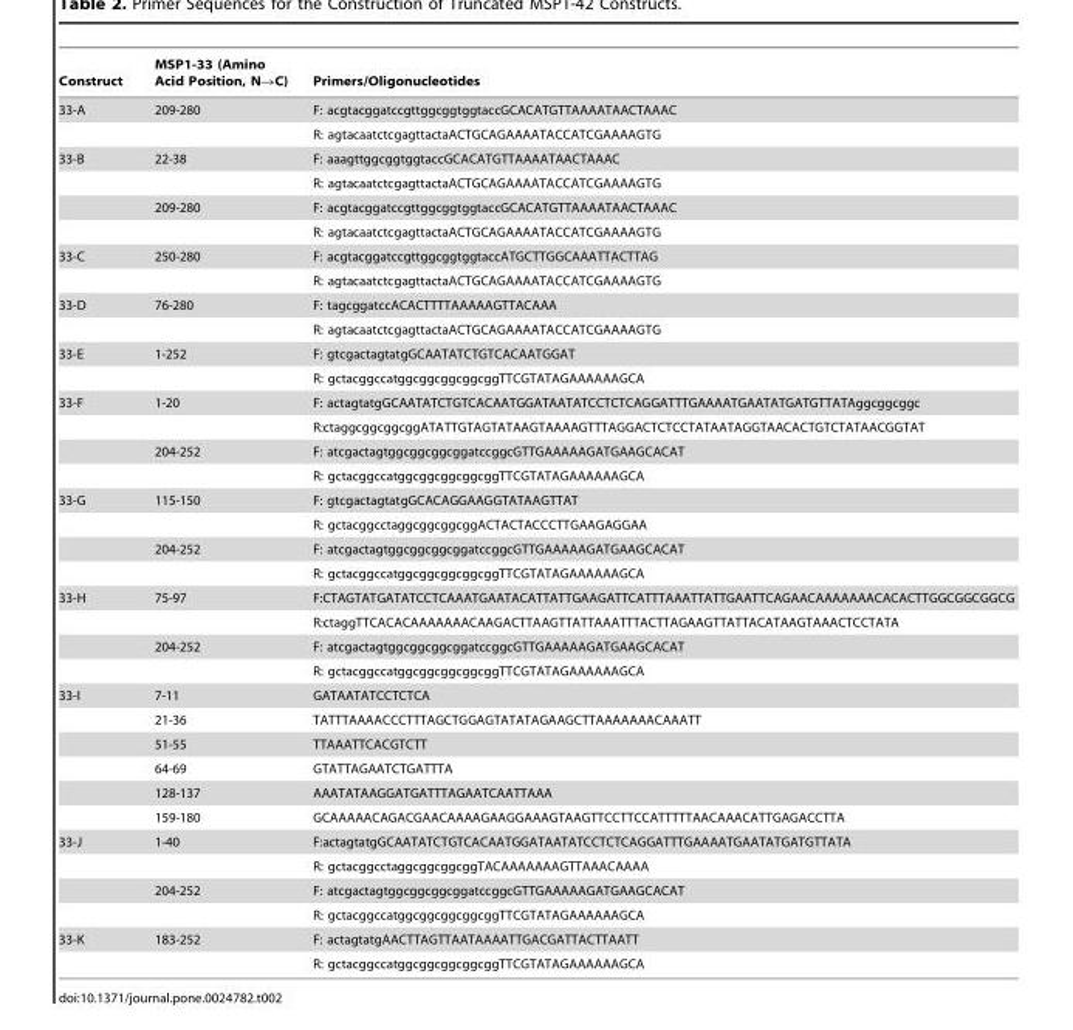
<table><thead><tr><td>Construct</td><td>MSP1-33 (Amino Acid Position, N→C)</td><td>Primers/Oligonucleotides</td></tr></thead><tbody><tr><td rowspan="2">33-A</td><td>209-280</td><td>F: acgtacggatccgttggcggtggtaccGCACATGTTAAAATAACTAAAC</td></tr><tr><td></td><td>R: agtacaatctcgagttactaACTGCAGAAAATACCATCGAAAAGTG</td></tr><tr><td rowspan="4">33-B</td><td>22-38</td><td>F: aaagttggcggtggtaccGCACATGTTAAAATAACTAAAC</td></tr><tr><td></td><td>R: agtacaatctcgagttactaACTGCAGAAAATACCATCGAAAAGTG</td></tr><tr><td>209-280</td><td>F: acgtacggatccgttggcggtggtaccGCACATGTTAAAATAACTAAAC</td></tr><tr><td></td><td>R: agtacaatctcgagttactaACTGCAGAAAATACCATCGAAAAGTG</td></tr><tr><td rowspan="2">33-C</td><td>250-280</td><td>F: acgtacggatccgttggcggtggtaccATGCTTGGCAAATTACTTAG</td></tr><tr><td></td><td>R: agtacaatctcgagttactaACTGCAGAAAATACCATCGAAAAGTG</td></tr><tr><td rowspan="2">33-D</td><td>76-280</td><td>F: tagcggatccACACTTTTAAAAAGTTACAAA</td></tr><tr><td></td><td>R: agtacaatctcgagttactaACTGCAGAAAATACCATCGAAAAGTG</td></tr><tr><td rowspan="2">33-E</td><td>1-252</td><td>F: gtcgactagtatgGCAATATCTGTCACAATGGAT</td></tr><tr><td></td><td>R: gctacggccatggcggcggcggcggTTCGTATAGAAAAAAGCA</td></tr><tr><td rowspan="4">33-F</td><td>1-20</td><td>F: actagtatgGCAATATCTGTCACAATGGATAATATCCTCTCAGGATTTGAAAATGAATATGATGTTATAggcggcggc</td></tr><tr><td></td><td>R:ctaggcggcggcggATATTGTAGTATAAGTAAAAGTTTAGGACTCTCCTATAATAGGTAACACTGTCTATAACGGTAT</td></tr><tr><td>204-252</td><td>F: atcgactagtggcggcggcggatccggcGTTGAAAAAGATGAAGCACAT</td></tr><tr><td></td><td>R: gctacggccatggcggcggcggcggTTCGTATAGAAAAAAGCA</td></tr><tr><td rowspan="4">33-G</td><td>115-150</td><td>F: gtcgactagtatgGCACAGGAAGGTATAAGTTAT</td></tr><tr><td></td><td>R: gctacggcctaggcggcggcggACTACTACCCTTGAAGAGGAA</td></tr><tr><td>204-252</td><td>F: atcgactagtggcggcggcggatccggcGTTGAAAAAGATGAAGCACAT</td></tr><tr><td></td><td>R: gctacggccatggcggcggcggcggTTCGTATAGAAAAAAGCA</td></tr><tr><td rowspan="4">33-H</td><td>75-97</td><td>F:CTAGTATGATATCCTCAAATGAATACATTATTGAAGATTCATTTAAATTATTGAATTCAGAACAAAAAAACACACTTGGCGGCGGCG</td></tr><tr><td></td><td>R:ctaggTTCACACAAAAAAACAAGACTTAAGTTATTAAATTTACTTAGAAGTTATTACATAAGTAAACTCCTATA</td></tr><tr><td>204-252</td><td>F: atcgactagtggcggcggcggatccggcGTTGAAAAAGATGAAGCACAT</td></tr><tr><td></td><td>R: gctacggccatggcggcggcggcggTTCGTATAGAAAAAAGCA</td></tr><tr><td rowspan="6">33-I</td><td>7-11</td><td>GATAATATCCTCTCA</td></tr><tr><td>21-36</td><td>TATTTAAAACCCTTTAGCTGGAGTATATAGAAGCTTAAAAAAACAAATT</td></tr><tr><td>51-55</td><td>TTAAATTCACGTCTT</td></tr><tr><td>64-69</td><td>GTATTAGAATCTGATTTA</td></tr><tr><td>128-137</td><td>AAATATAAGGATGATTTAGAATCAATTAAA</td></tr><tr><td>159-180</td><td>GCAAAAACAGACGAACAAAAGAAGGAAAGTAAGTTCCTTCCATTTTTAACAAACATTGAGACCTTA</td></tr><tr><td rowspan="4">33-J</td><td>1-40</td><td>F:actagtatgGCAATATCTGTCACAATGGATAATATCCTCTCAGGATTTGAAAATGAATATGATGTTATA</td></tr><tr><td></td><td>R: gctacggcctaggcggcggcggTACAAAAAAAGTTAAACAAAA</td></tr><tr><td>204-252</td><td>F: atcgactagtggcggcggcggatccggcGTTGAAAAAGATGAAGCACAT</td></tr><tr><td></td><td>R: gctacggccatggcggcggcggcggTTCGTATAGAAAAAAGCA</td></tr><tr><td rowspan="2">33-K</td><td>183-252</td><td>F: actagtatgAACTTAGTTAATAAAATTGACGATTACTTAATT</td></tr><tr><td></td><td>R: gctacggccatggcggcggcggcggTTCGTATAGAAAAAAGCA</td></tr></tbody></table>